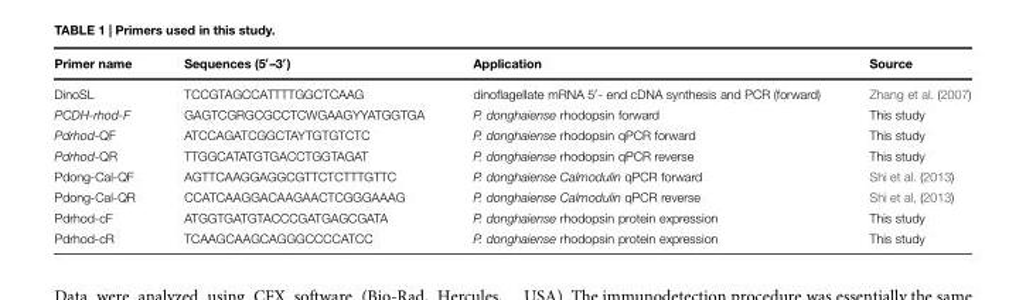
<table><thead><tr><td>Primer name</td><td>Sequences (5′–3′)</td><td>Application</td><td>Source</td></tr></thead><tbody><tr><td>DinoSL</td><td>TCCGTAGCCATTTTGGCTCAAG</td><td>dinoflagellate mRNA 5′- end cDNA synthesis and PCR (forward)</td><td>Zhang et al. (2007)</td></tr><tr><td>PCDH-rhod-F</td><td>GAGTCGRGCGCCTCWGAAGYYATGGTGA</td><td>P. donghaiense rhodopsin forward</td><td>This study</td></tr><tr><td>Pdrhod-QF</td><td>ATCCAGATCGGCTAYTGTGTCTC</td><td>P. donghaiense rhodopsin qPCR forward</td><td>This study</td></tr><tr><td>Pdrhod-QR</td><td>TTGGCATATGTGACCTGGTAGAT</td><td>P. donghaiense rhodopsin qPCR reverse</td><td>This study</td></tr><tr><td>Pdong-Cal-QF</td><td>AGTTCAAGGAGGCGTTCTCTTTGTTC</td><td>P. donghaiense Calmodulin qPCR forward</td><td>Shi et al. (2013)</td></tr><tr><td>Pdong-Cal-QR</td><td>CCATCAAGGACAAGAACTCGGGAAAG</td><td>P. donghaiense Calmodulin qPCR reverse</td><td>Shi et al. (2013)</td></tr><tr><td>Pdrhod-cF</td><td>ATGGTGATGTACCCGATGAGCGATA</td><td>P. donghaiense rhodopsin protein expression</td><td>This study</td></tr><tr><td>Pdrhod-cR</td><td>TCAAGCAAGCAGGGCCCCATCC</td><td>P. donghaiense rhodopsin protein expression</td><td>This study</td></tr></tbody></table>